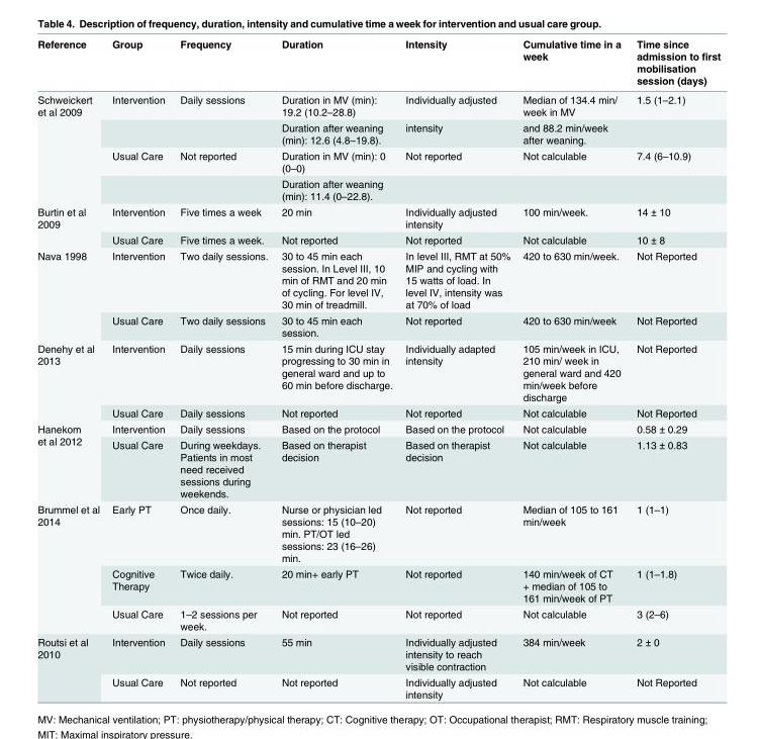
<table><thead><tr><td>Reference</td><td>Group</td><td>Frequency</td><td>Duration</td><td>Intensity</td><td>Cumulative time in a week</td><td>Time since admission to first mobilisation session (days)</td></tr></thead><tbody><tr><td rowspan="4">Schweickert et al 2009</td><td>Intervention</td><td>Daily sessions</td><td>Duration in MV (min): 19.2 (10.2–28.8)</td><td>Individually adjusted</td><td>Median of 134.4 min/ week in MV</td><td>1.5 (1–2.1)</td></tr><tr><td></td><td></td><td>Duration after weaning (min): 12.6 (4.8–19.8).</td><td>intensity</td><td>and 88.2 min/week after weaning.</td><td></td></tr><tr><td>Usual Care</td><td>Not reported</td><td>Duration in MV (min): 0 (0–0)</td><td>Not reported</td><td>Not calculable</td><td>7.4 (6–10.9)</td></tr><tr><td></td><td></td><td>Duration after weaning (min): 11.4 (0–22.8).</td><td></td><td></td><td></td></tr><tr><td rowspan="2">Burtin et al 2009</td><td>Intervention</td><td>Five times a week</td><td>20 min</td><td>Individually adjusted intensity</td><td>100 min/week.</td><td>14 ± 10</td></tr><tr><td>Usual Care</td><td>Five times a week.</td><td>Not reported</td><td>Not reported</td><td>Not calculable</td><td>10 ± 8</td></tr><tr><td rowspan="2">Nava 1998</td><td>Intervention</td><td>Two daily sessions.</td><td>30 to 45 min each session. In Level III, 10 min of RMT and 20 min of cycling. For level IV, 30 min of treadmill.</td><td>In level III, RMT at 50% MIP and cycling with 15 watts of load. In level IV, intensity was at 70% of load</td><td>420 to 630 min/week.</td><td>Not Reported</td></tr><tr><td>Usual Care</td><td>Two daily sessions</td><td>30 to 45 min each session.</td><td>Not reported</td><td>420 to 630 min/week</td><td>Not Reported</td></tr><tr><td rowspan="2">Denehy et al 2013</td><td>Intervention</td><td>Daily sessions</td><td>15 min during ICU stay progressing to 30 min in general ward and up to 60 min before discharge.</td><td>Individually adapted intensity</td><td>105 min/week in ICU, 210 min/ week in general ward and 420 min/week before discharge</td><td>Not Reported</td></tr><tr><td>Usual Care</td><td>Daily sessions</td><td>Not reported</td><td>Not reported</td><td>Not calculable</td><td>Not Reported</td></tr><tr><td rowspan="2">Hanekom et al 2012</td><td>Intervention</td><td>Daily sessions</td><td>Based on the protocol</td><td>Based on the protocol</td><td>Not calculable</td><td>0.58 ± 0.29</td></tr><tr><td>Usual Care</td><td>During weekdays. Patients in most need received sessions during weekends.</td><td>Based on therapist decision</td><td>Based on therapist decision</td><td>Not calculable</td><td>1.13 ± 0.83</td></tr><tr><td rowspan="3">Brummel et al 2014</td><td>Early PT</td><td>Once daily.</td><td>Nurse or physician led sessions: 15 (10–20) min. PT/OT led sessions: 23 (16–26) min.</td><td>Not reported</td><td>Median of 105 to 161 min/week</td><td>1 (1–1)</td></tr><tr><td>Cognitive Therapy</td><td>Twice daily.</td><td>20 min+ early PT</td><td>Not reported</td><td>140 min/week of CT + median of 105 to 161 min/week of PT</td><td>1 (1–1.8)</td></tr><tr><td>Usual Care</td><td>1–2 sessions per week.</td><td>Not reported</td><td>Not reported</td><td>Not calculable</td><td>3 (2–6)</td></tr><tr><td rowspan="2">Routsi et al 2010</td><td>Intervention</td><td>Daily sessions</td><td>55 min</td><td>Individually adjusted intensity to reach visible contraction</td><td>384 min/week</td><td>2 ± 0</td></tr><tr><td>Usual Care</td><td>Not reported</td><td>Not reported</td><td>Individually adjusted intensity</td><td>Not calculable</td><td>Not Reported</td></tr></tbody></table>